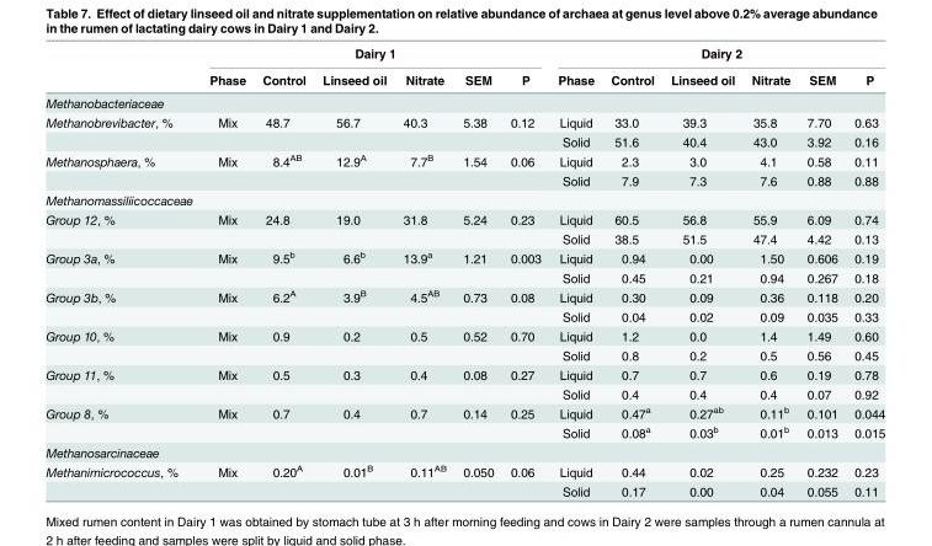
<table><thead><tr><td rowspan="2"></td><td colspan="6">Dairy 1</td><td colspan="6">Dairy 2</td></tr><tr><td>Phase</td><td>Control</td><td>Linseed oil</td><td>Nitrate</td><td>SEM</td><td>P</td><td>Phase</td><td>Control</td><td>Linseed oil</td><td>Nitrate</td><td>SEM</td><td>P</td></tr></thead><tbody><tr><td colspan="13">Methanobacteriaceae</td></tr><tr><td rowspan="2">Methanobrevibacter, %</td><td>Mix</td><td>48.7</td><td>56.7</td><td>40.3</td><td>5.38</td><td>0.12</td><td>Liquid</td><td>33.0</td><td>39.3</td><td>35.8</td><td>7.70</td><td>0.63</td></tr><tr><td></td><td></td><td></td><td></td><td></td><td></td><td>Solid</td><td>51.6</td><td>40.4</td><td>43.0</td><td>3.92</td><td>0.16</td></tr><tr><td rowspan="2">Methanosphaera, %</td><td>Mix</td><td>8.4<sup>AB</sup></td><td>12.9<sup>A</sup></td><td>7.7<sup>B</sup></td><td>1.54</td><td>0.06</td><td>Liquid</td><td>2.3</td><td>3.0</td><td>4.1</td><td>0.58</td><td>0.11</td></tr><tr><td></td><td></td><td></td><td></td><td></td><td></td><td>Solid</td><td>7.9</td><td>7.3</td><td>7.6</td><td>0.88</td><td>0.88</td></tr><tr><td colspan="13">Methanomassiliicoccaceae</td></tr><tr><td rowspan="2">Group 12, %</td><td>Mix</td><td>24.8</td><td>19.0</td><td>31.8</td><td>5.24</td><td>0.23</td><td>Liquid</td><td>60.5</td><td>56.8</td><td>55.9</td><td>6.09</td><td>0.74</td></tr><tr><td></td><td></td><td></td><td></td><td></td><td></td><td>Solid</td><td>38.5</td><td>51.5</td><td>47.4</td><td>4.42</td><td>0.13</td></tr><tr><td rowspan="2">Group 3a, %</td><td>Mix</td><td>9.5<sup>b</sup></td><td>6.6<sup>b</sup></td><td>13.9<sup>a</sup></td><td>1.21</td><td>0.003</td><td>Liquid</td><td>0.94</td><td>0.00</td><td>1.50</td><td>0.606</td><td>0.19</td></tr><tr><td></td><td></td><td></td><td></td><td></td><td></td><td>Solid</td><td>0.45</td><td>0.21</td><td>0.94</td><td>0.267</td><td>0.18</td></tr><tr><td rowspan="2">Group 3b, %</td><td>Mix</td><td>6.2<sup>A</sup></td><td>3.9<sup>B</sup></td><td>4.5<sup>AB</sup></td><td>0.73</td><td>0.08</td><td>Liquid</td><td>0.30</td><td>0.09</td><td>0.36</td><td>0.118</td><td>0.20</td></tr><tr><td></td><td></td><td></td><td></td><td></td><td></td><td>Solid</td><td>0.04</td><td>0.02</td><td>0.09</td><td>0.035</td><td>0.33</td></tr><tr><td rowspan="2">Group 10, %</td><td>Mix</td><td>0.9</td><td>0.2</td><td>0.5</td><td>0.52</td><td>0.70</td><td>Liquid</td><td>1.2</td><td>0.0</td><td>1.4</td><td>1.49</td><td>0.60</td></tr><tr><td></td><td></td><td></td><td></td><td></td><td></td><td>Solid</td><td>0.8</td><td>0.2</td><td>0.5</td><td>0.56</td><td>0.45</td></tr><tr><td rowspan="2">Group 11, %</td><td>Mix</td><td>0.5</td><td>0.3</td><td>0.4</td><td>0.08</td><td>0.27</td><td>Liquid</td><td>0.7</td><td>0.7</td><td>0.6</td><td>0.19</td><td>0.78</td></tr><tr><td></td><td></td><td></td><td></td><td></td><td></td><td>Solid</td><td>0.4</td><td>0.4</td><td>0.4</td><td>0.07</td><td>0.92</td></tr><tr><td rowspan="2">Group 8, %</td><td>Mix</td><td>0.7</td><td>0.4</td><td>0.7</td><td>0.14</td><td>0.25</td><td>Liquid</td><td>0.47<sup>a</sup></td><td>0.27<sup>ab</sup></td><td>0.11<sup>b</sup></td><td>0.101</td><td>0.044</td></tr><tr><td></td><td></td><td></td><td></td><td></td><td></td><td>Solid</td><td>0.08<sup>a</sup></td><td>0.03<sup>b</sup></td><td>0.01<sup>b</sup></td><td>0.013</td><td>0.015</td></tr><tr><td colspan="13">Methanosarcinaceae</td></tr><tr><td rowspan="2">Methanimicrococcus, %</td><td>Mix</td><td>0.20<sup>A</sup></td><td>0.01<sup>B</sup></td><td>0.11<sup>AB</sup></td><td>0.050</td><td>0.06</td><td>Liquid</td><td>0.44</td><td>0.02</td><td>0.25</td><td>0.232</td><td>0.23</td></tr><tr><td></td><td></td><td></td><td></td><td></td><td></td><td>Solid</td><td>0.17</td><td>0.00</td><td>0.04</td><td>0.055</td><td>0.11</td></tr></tbody></table>